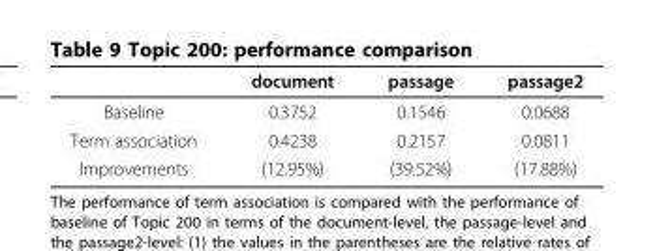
<table><thead><tr><td></td><td>document</td><td>passage</td><td>passage2</td></tr></thead><tbody><tr><td>Baseline</td><td>0.3752</td><td>0.1546</td><td>0.0688</td></tr><tr><td>Term association</td><td>0.4238</td><td>0.2157</td><td>0.0811</td></tr><tr><td>Improvements</td><td>(12.95%)</td><td>(39.52%)</td><td>(17.88%)</td></tr></tbody></table>